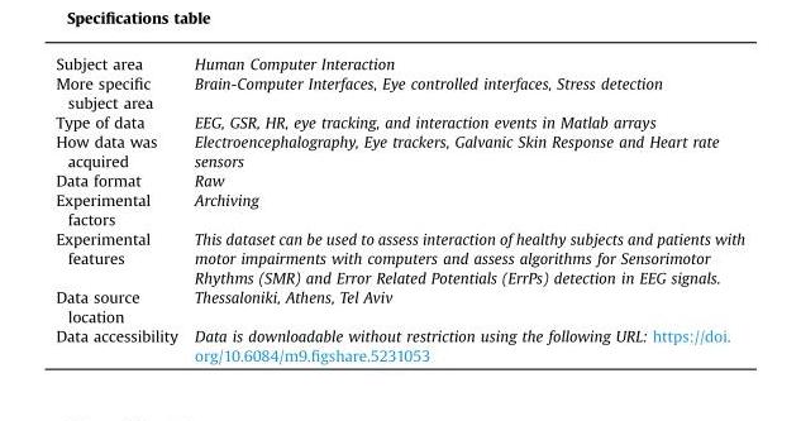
<table><tbody><tr><td>Subject area</td><td>Human Computer Interaction</td></tr><tr><td>More specific subject area</td><td>Brain-Computer Interfaces, Eye controlled interfaces, Stress detection</td></tr><tr><td>Type of data</td><td>EEG, GSR, HR, eye tracking, and interaction events in Matlab arrays</td></tr><tr><td>How data was acquired</td><td>Electroencephalography, Eye trackers, Galvanic Skin Response and Heart rate sensors</td></tr><tr><td>Data format</td><td>Raw</td></tr><tr><td>Experimental factors</td><td>Archiving</td></tr><tr><td>Experimental features</td><td>This dataset can be used to assess interaction of healthy subjects and patients with motor impairments with computers and assess algorithms for Sensorimotor Rhythms (SMR) and Error Related Potentials (ErrPs) detection in EEG signals.</td></tr><tr><td>Data source location</td><td>Thessaloniki, Athens, Tel Aviv</td></tr><tr><td>Data accessibility</td><td>Data is downloadable without restriction using the following URL: https://doi. org/10.6084/m9.figshare.5231053</td></tr></tbody></table>